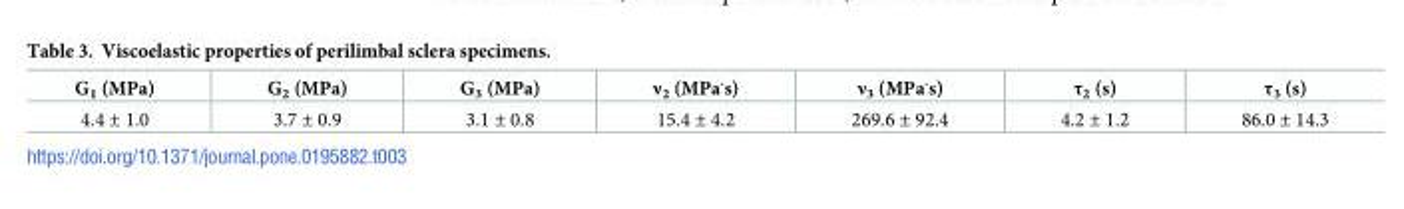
<table><thead><tr><td>G<sub>1</sub> (MPa)</td><td>G<sub>2</sub> (MPa)</td><td>G<sub>3</sub> (MPa)</td><td>ν<sub>2</sub> (MPa<sup>.</sup>s)</td><td>ν<sub>3</sub> (MPa<sup>.</sup>s)</td><td>τ<sub>2</sub> (s)</td><td>τ<sub>3</sub> (s)</td></tr></thead><tbody><tr><td>4.4 ± 1.0</td><td>3.7 ± 0.9</td><td>3.1 ± 0.8</td><td>15.4 ± 4.2</td><td>269.6 ± 92.4</td><td>4.2 ± 1.2</td><td>86.0 ± 14.3</td></tr></tbody></table>